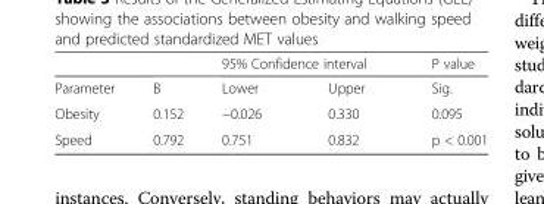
<table><thead><tr><td rowspan="2">Parameter</td><td rowspan="2">B</td><td colspan="2">95% Confidence interval</td><td rowspan="2">P value Sig.</td></tr><tr><td>Lower</td><td>Upper</td></tr></thead><tbody><tr><td>Obesity</td><td>0.152</td><td>−0.026</td><td>0.330</td><td>0.095</td></tr><tr><td>Speed</td><td>0.792</td><td>0.751</td><td>0.832</td><td>p &lt; 0.001</td></tr></tbody></table>